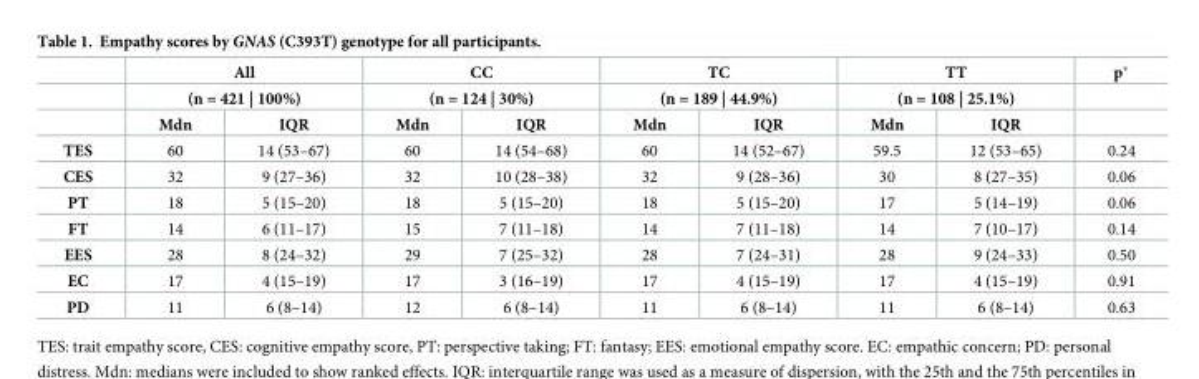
<table><thead><tr><td rowspan="3"></td><td rowspan="2" colspan="2">All (n = 421 | 100%)</td><td rowspan="2" colspan="2">CC (n = 124 | 30%)</td><td rowspan="2" colspan="2">TC (n = 189 | 44.9%)</td><td rowspan="2" colspan="2">TT (n = 108 | 25.1%)</td><td rowspan="3">p*</td></tr><tr></tr><tr><td>Mdn</td><td>IQR</td><td>Mdn</td><td>IQR</td><td>Mdn</td><td>IQR</td><td>Mdn</td><td>IQR</td></tr></thead><tbody><tr><td>TES</td><td>60</td><td>14 (53–67)</td><td>60</td><td>14 (54–68)</td><td>60</td><td>14 (52–67)</td><td>59.5</td><td>12 (53–65)</td><td>0.24</td></tr><tr><td>CES</td><td>32</td><td>9 (27–36)</td><td>32</td><td>10 (28–38)</td><td>32</td><td>9 (28–36)</td><td>30</td><td>8 (27–35)</td><td>0.06</td></tr><tr><td>PT</td><td>18</td><td>5 (15–20)</td><td>18</td><td>5 (15–20)</td><td>18</td><td>5 (15–20)</td><td>17</td><td>5 (14–19)</td><td>0.06</td></tr><tr><td>FT</td><td>14</td><td>6 (11–17)</td><td>15</td><td>7 (11–18)</td><td>14</td><td>7 (11–18)</td><td>14</td><td>7 (10–17)</td><td>0.14</td></tr><tr><td>EES</td><td>28</td><td>8 (24–32)</td><td>29</td><td>7 (25–32)</td><td>28</td><td>7 (24–31)</td><td>28</td><td>9 (24–33)</td><td>0.50</td></tr><tr><td>EC</td><td>17</td><td>4 (15–19)</td><td>17</td><td>3 (16–19)</td><td>17</td><td>4 (15–19)</td><td>17</td><td>4 (15–19)</td><td>0.91</td></tr><tr><td>PD</td><td>11</td><td>6 (8–14)</td><td>12</td><td>6 (8–14)</td><td>11</td><td>6 (8–14)</td><td>11</td><td>6 (8–14)</td><td>0.63</td></tr></tbody></table>